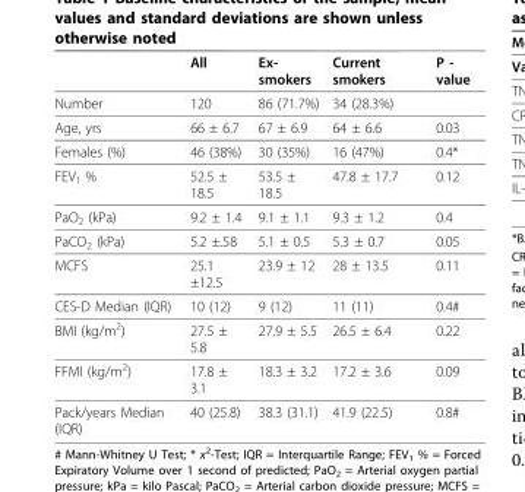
<table><thead><tr><td></td><td>All</td><td>Ex- smokers</td><td>Current smokers</td><td>P - value</td></tr></thead><tbody><tr><td>Number</td><td>120</td><td>86 (71.7%)</td><td>34 (28.3%)</td><td></td></tr><tr><td>Age, yrs</td><td>66 ± 6.7</td><td>67 ± 6.9</td><td>64 ± 6.6</td><td>0.03</td></tr><tr><td>Females (%)</td><td>46 (38%)</td><td>30 (35%)</td><td>16 (47%)</td><td>0.4*</td></tr><tr><td>FEV<sub>1</sub> %</td><td>52.5 ± 18.5</td><td>53.5 ± 18.5</td><td>47.8 ± 17.7</td><td>0.12</td></tr><tr><td>PaO<sub>2</sub> (kPa)</td><td>9.2 ± 1.4</td><td>9.1 ± 1.1</td><td>9.3 ± 1.2</td><td>0.4</td></tr><tr><td>PaCO<sub>2</sub> (kPa)</td><td>5.2 ±.58</td><td>5.1 ± 0.5</td><td>5.3 ± 0.7</td><td>0.05</td></tr><tr><td>MCFS</td><td>25.1 ±12.5</td><td>23.9 ± 12</td><td>28 ± 13.5</td><td>0.11</td></tr><tr><td>CES-D Median (IQR)</td><td>10 (12)</td><td>9 (12)</td><td>11 (11)</td><td>0.4#</td></tr><tr><td>BMI (kg/m<sup>2</sup>)</td><td>27.5 ± 5.8</td><td>27.9 ± 5.5</td><td>26.5 ± 6.4</td><td>0.22</td></tr><tr><td>FFMI (kg/m<sup>2</sup>)</td><td>17.8 ± 3.1</td><td>18.3 ± 3.2</td><td>17.2 ± 3.6</td><td>0.09</td></tr><tr><td>Pack/years Median (IQR)</td><td>40 (25.8)</td><td>38.3 (31.1)</td><td>41.9 (22.5)</td><td>0.8#</td></tr></tbody></table>